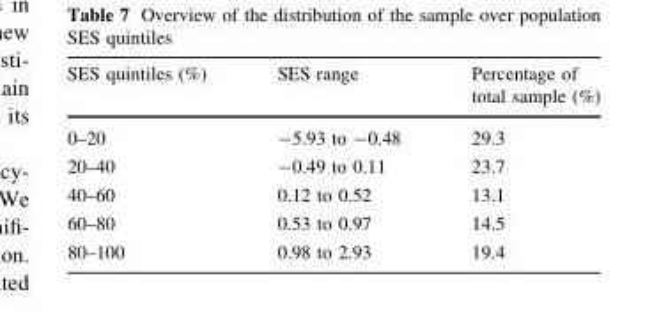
<table><thead><tr><td>SES quintiles (%)</td><td>SES range</td><td>Percentage of total sample (%)</td></tr></thead><tbody><tr><td>0–20</td><td>-5.93 to -0.48</td><td>29.3</td></tr><tr><td>20–40</td><td>-0.49 to 0.11</td><td>23.7</td></tr><tr><td>40–60</td><td>0.12 to 0.52</td><td>13.1</td></tr><tr><td>60–80</td><td>0.53 to 0.97</td><td>14.5</td></tr><tr><td>80–100</td><td>0.98 to 2.93</td><td>19.4</td></tr></tbody></table>